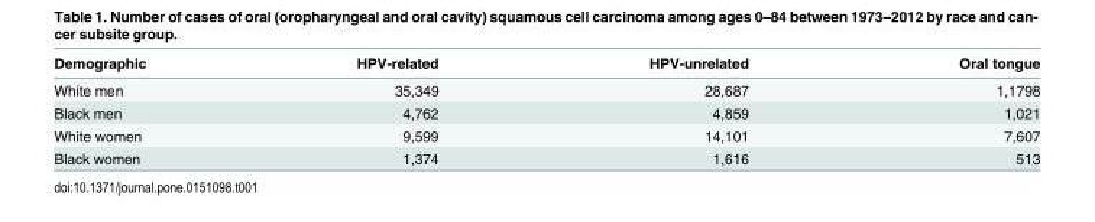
<table><thead><tr><td>Demographic</td><td>HPV-related</td><td>HPV-unrelated</td><td>Oral tongue</td></tr></thead><tbody><tr><td>White men</td><td>35,349</td><td>28,687</td><td>1,1798</td></tr><tr><td>Black men</td><td>4,762</td><td>4,859</td><td>1,021</td></tr><tr><td>White women</td><td>9,599</td><td>14,101</td><td>7,607</td></tr><tr><td>Black women</td><td>1,374</td><td>1,616</td><td>513</td></tr></tbody></table>